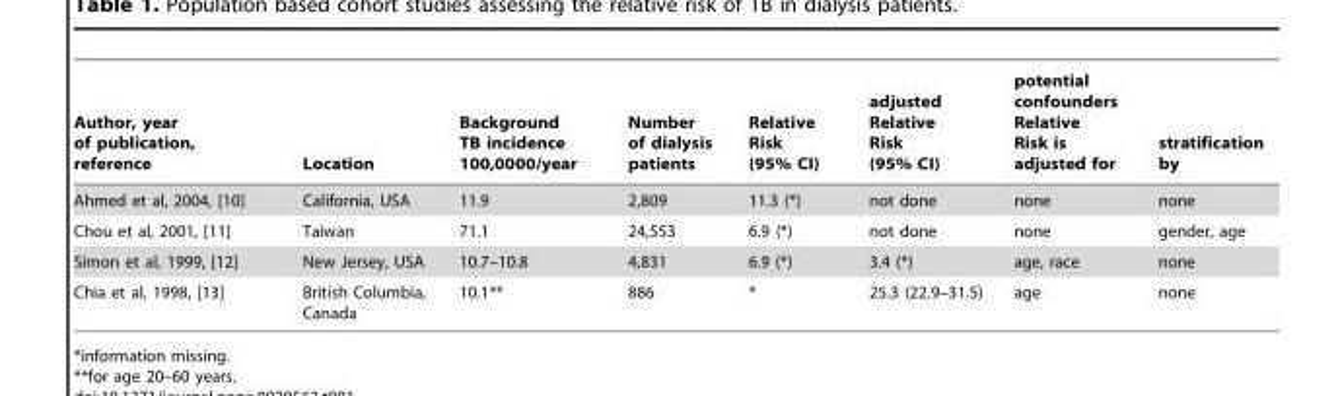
<table><thead><tr><td>Author, year of publication, reference</td><td>Location</td><td>Background TB incidence 100,0000/year</td><td>Number of dialysis patients</td><td>Relative Risk (95% CI)</td><td>adjusted Relative Risk (95% CI)</td><td>potential confounders Relative Risk is adjusted for</td><td>stratification by</td></tr></thead><tbody><tr><td>Ahmed et al, 2004, [10]</td><td>California, USA</td><td>11.9</td><td>2,809</td><td>11.3 (*)</td><td>not done</td><td>none</td><td>none</td></tr><tr><td>Chou et al, 2001, [11]</td><td>Taiwan</td><td>71.1</td><td>24,553</td><td>6.9 (*)</td><td>not done</td><td>none</td><td>gender, age</td></tr><tr><td>Simon et al, 1999, [12]</td><td>New Jersey, USA</td><td>10.7–10.8</td><td>4,831</td><td>6.9 (*)</td><td>3.4 (*)</td><td>age, race</td><td>none</td></tr><tr><td>Chia et al, 1998, [13]</td><td>British Columbia, Canada</td><td>10.1**</td><td>886</td><td>*</td><td>25.3 (22.9–31.5)</td><td>age</td><td>none</td></tr></tbody></table>